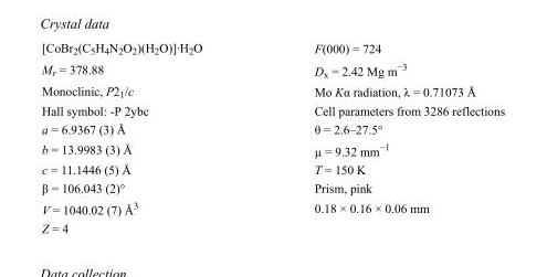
<table><tbody><tr><td>[CoBr<sub>2</sub>(C<sub>5</sub>H<sub>4</sub>N<sub>2</sub>O<sub>2</sub>)(H<sub>2</sub>O)]·H<sub>2</sub>O</td><td>F(000) = 724</td></tr><tr><td>M<sub>r</sub> = 378.88</td><td>D<sub>x</sub> = 2.42 Mg m<sup>−3</sup></td></tr><tr><td>Monoclinic, P2<sub>1</sub>/c</td><td>Mo Kα radiation, λ = 0.71073 Å</td></tr><tr><td>Hall symbol: -P 2ybc</td><td>Cell parameters from 3286 reflections</td></tr><tr><td>a = 6.9367 (3) Å</td><td>θ = 2.6–27.5°</td></tr><tr><td>b = 13.9983 (3) Å</td><td>µ = 9.32 mm<sup>−1</sup></td></tr><tr><td>c = 11.1446 (5) Å</td><td>T = 150 K</td></tr><tr><td>β = 106.043 (2)°</td><td>Prism, pink</td></tr><tr><td>V = 1040.02 (7) Å<sup>3</sup></td><td>0.18 × 0.16 × 0.06 mm</td></tr><tr><td>Z = 4</td><td></td></tr></tbody></table>